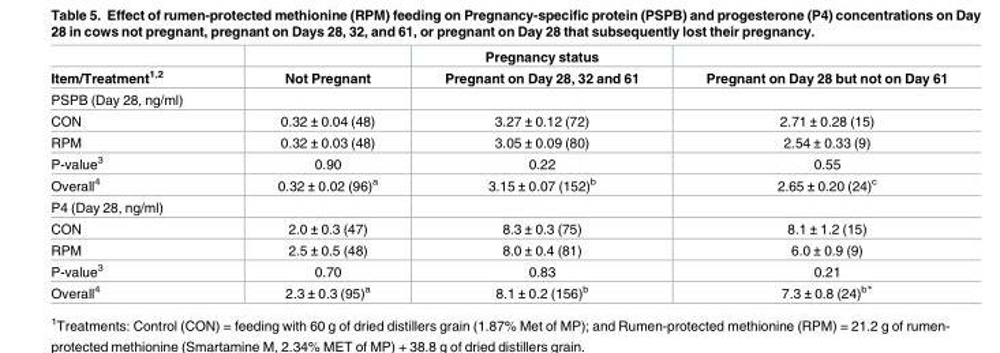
<table><thead><tr><td rowspan="2">Item/Treatment<sup>1,2</sup></td><td rowspan="2">Not Pregnant</td><td rowspan="2">Pregnancy status Pregnant on Day 28, 32 and 61</td><td rowspan="2">Pregnant on Day 28 but not on Day 61</td></tr><tr></tr></thead><tbody><tr><td colspan="4">PSPB (Day 28, ng/ml)</td></tr><tr><td>CON</td><td>0.32 ± 0.04 (48)</td><td>3.27 ± 0.12 (72)</td><td>2.71 ± 0.28 (15)</td></tr><tr><td>RPM</td><td>0.32 ± 0.03 (48)</td><td>3.05 ± 0.09 (80)</td><td>2.54 ± 0.33 (9)</td></tr><tr><td>P-value<sup>3</sup></td><td>0.90</td><td>0.22</td><td>0.55</td></tr><tr><td>Overall<sup>4</sup></td><td>0.32 ± 0.02 (96)<sup>a</sup></td><td>3.15 ± 0.07 (152)<sup>b</sup></td><td>2.65 ± 0.20 (24)<sup>c</sup></td></tr><tr><td colspan="4">P4 (Day 28, ng/ml)</td></tr><tr><td>CON</td><td>2.0 ± 0.3 (47)</td><td>8.3 ± 0.3 (75)</td><td>8.1 ± 1.2 (15)</td></tr><tr><td>RPM</td><td>2.5 ± 0.5 (48)</td><td>8.0 ± 0.4 (81)</td><td>6.0 ± 0.9 (9)</td></tr><tr><td>P-value<sup>3</sup></td><td>0.70</td><td>0.83</td><td>0.21</td></tr><tr><td>Overall<sup>4</sup></td><td>2.3 ± 0.3 (95)<sup>a</sup></td><td>8.1 ± 0.2 (156)<sup>b</sup></td><td>7.3 ± 0.8 (24)<sup>b*</sup></td></tr></tbody></table>